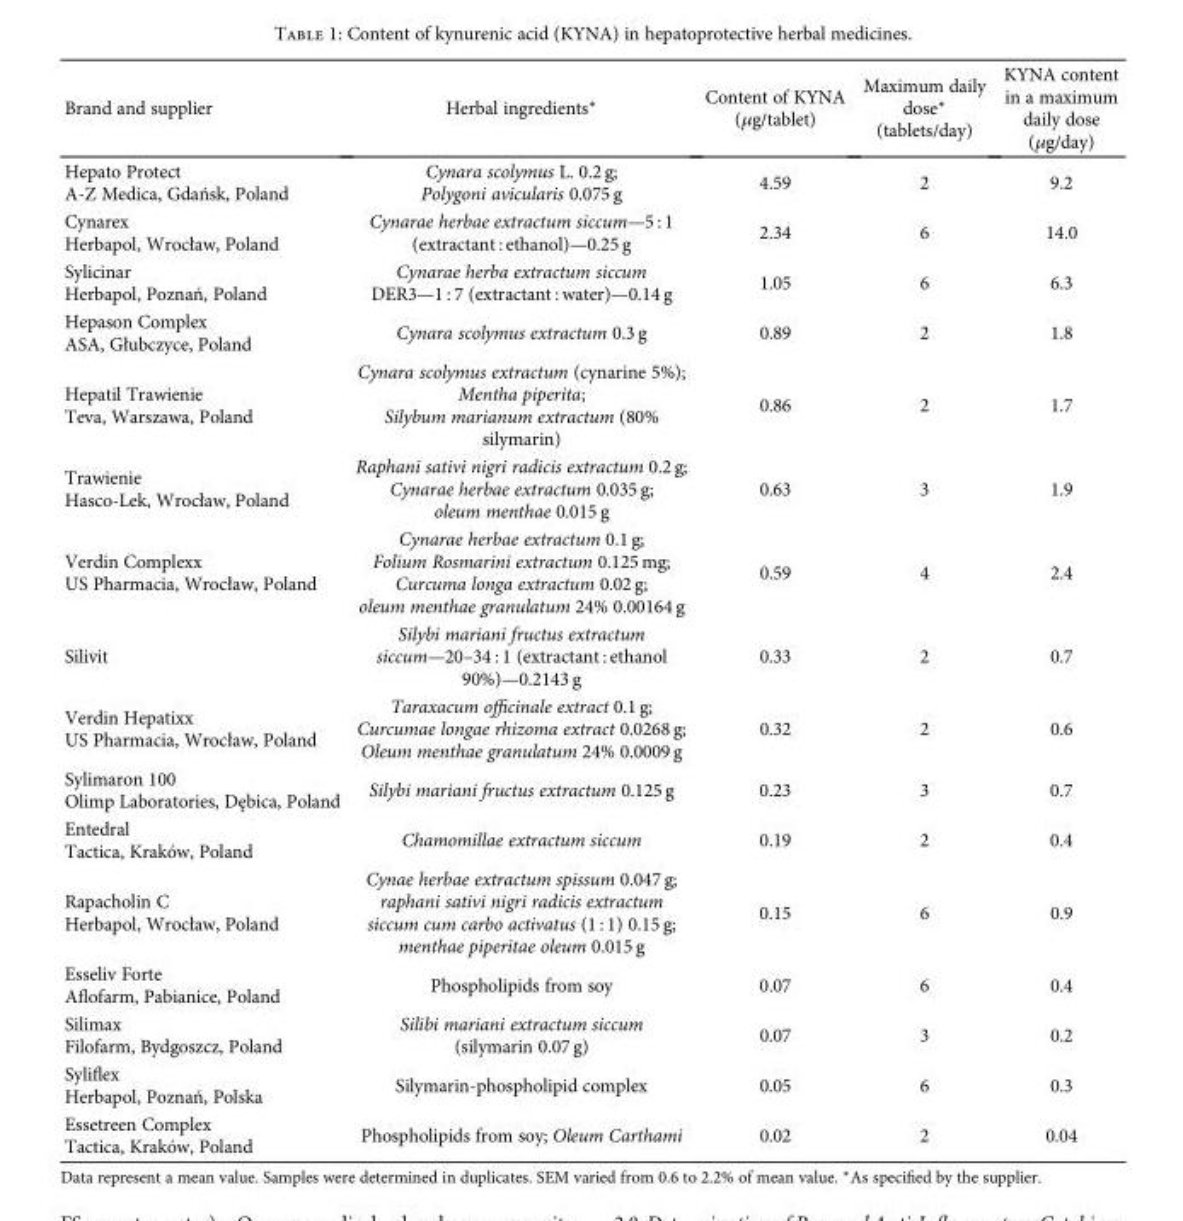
<table><thead><tr><td>Brand and supplier</td><td>Herbal ingredients∗</td><td>Content of KYNA (μg/tablet)</td><td>Maximum daily dose∗ (tablets/day)</td><td>KYNA content in a maximum daily dose (μg/day)</td></tr></thead><tbody><tr><td>Hepato Protect A-Z Medica, Gdańsk, Poland</td><td>Cynara scolymus L. 0.2 g; Polygoni avicularis 0.075 g</td><td>4.59</td><td>2</td><td>9.2</td></tr><tr><td>Cynarex Herbapol, Wrocław, Poland</td><td>Cynarae herbae extractum siccum—5 : 1 (extractant : ethanol)—0.25 g</td><td>2.34</td><td>6</td><td>14.0</td></tr><tr><td>Sylicinar Herbapol, Poznań, Poland</td><td>Cynarae herba extractum siccum DER3—1 : 7 (extractant : water)—0.14 g</td><td>1.05</td><td>6</td><td>6.3</td></tr><tr><td>Hepason Complex ASA, Głubczyce, Poland</td><td>Cynara scolymus extractum 0.3 g</td><td>0.89</td><td>2</td><td>1.8</td></tr><tr><td>Hepatil Trawienie Teva, Warszawa, Poland</td><td>Cynara scolymus extractum (cynarine 5%); Mentha piperita; Silybum marianum extractum (80% silymarin)</td><td>0.86</td><td>2</td><td>1.7</td></tr><tr><td>Trawienie Hasco-Lek, Wrocław, Poland</td><td>Raphani sativi nigri radicis extractum 0.2 g; Cynarae herbae extractum 0.035 g; oleum menthae 0.015 g</td><td>0.63</td><td>3</td><td>1.9</td></tr><tr><td>Verdin Complexx US Pharmacia, Wrocław, Poland</td><td>Cynarae herbae extractum 0.1 g; Folium Rosmarini extractum 0.125 mg; Curcuma longa extractum 0.02 g; oleum menthae granulatum 24% 0.00164 g</td><td>0.59</td><td>4</td><td>2.4</td></tr><tr><td>Silivit</td><td>Silybi mariani fructus extractum siccum—20–34 : 1 (extractant : ethanol 90%)—0.2143 g</td><td>0.33</td><td>2</td><td>0.7</td></tr><tr><td>Verdin Hepatixx US Pharmacia, Wrocław, Poland</td><td>Taraxacum officinale extract 0.1 g; Curcumae longae rhizoma extract 0.0268 g; Oleum menthae granulatum 24% 0.0009 g</td><td>0.32</td><td>2</td><td>0.6</td></tr><tr><td>Sylimaron 100 Olimp Laboratories, Dębica, Poland</td><td>Silybi mariani fructus extractum 0.125 g</td><td>0.23</td><td>3</td><td>0.7</td></tr><tr><td>Entedral Tactica, Kraków, Poland</td><td>Chamomillae extractum siccum</td><td>0.19</td><td>2</td><td>0.4</td></tr><tr><td>Rapacholin C Herbapol, Wrocław, Poland</td><td>Cynae herbae extractum spissum 0.047 g; raphani sativi nigri radicis extractum siccum cum carbo activatus (1 : 1) 0.15 g; menthae piperitae oleum 0.015 g</td><td>0.15</td><td>6</td><td>0.9</td></tr><tr><td>Esseliv Forte Aflofarm, Pabianice, Poland</td><td>Phospholipids from soy</td><td>0.07</td><td>6</td><td>0.4</td></tr><tr><td>Silimax Filofarm, Bydgoszcz, Poland</td><td>Silibi mariani extractum siccum (silymarin 0.07 g)</td><td>0.07</td><td>3</td><td>0.2</td></tr><tr><td>Syliflex Herbapol, Poznań, Polska</td><td>Silymarin-phospholipid complex</td><td>0.05</td><td>6</td><td>0.3</td></tr><tr><td>Essetreen Complex Tactica, Kraków, Poland</td><td>Phospholipids from soy; Oleum Carthami</td><td>0.02</td><td>2</td><td>0.04</td></tr></tbody></table>